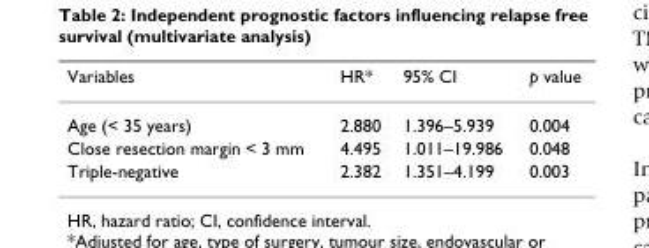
<table><thead><tr><td>Variables</td><td>HR*</td><td>95% CI</td><td>p value</td></tr></thead><tbody><tr><td>Age (&lt; 35 years)</td><td>2.880</td><td>1.396–5.939</td><td>0.004</td></tr><tr><td>Close resection margin &lt; 3 mm</td><td>4.495</td><td>1.011–19.986</td><td>0.048</td></tr><tr><td>Triple-negative</td><td>2.382</td><td>1.351–4.199</td><td>0.003</td></tr></tbody></table>